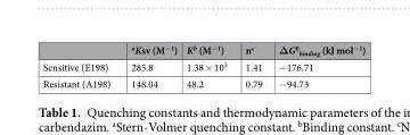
<table><thead><tr><td></td><td><sup>a</sup>Ksv (M<sup>−1</sup>)</td><td>K<sup>b</sup> (M<sup>−1</sup>)</td><td>n<sup>c</sup></td><td>ΔG<sup>0</sup> <sub>binding</sub> (kJ mol<sup>−1</sup>)</td></tr></thead><tbody><tr><td>Sensitive (E198)</td><td>285.8</td><td>1.38 × 10<sup>3</sup></td><td>1.41</td><td>−176.71</td></tr><tr><td>Resistant (A198)</td><td>148.04</td><td>48.2</td><td>0.79</td><td>−94.73</td></tr></tbody></table>